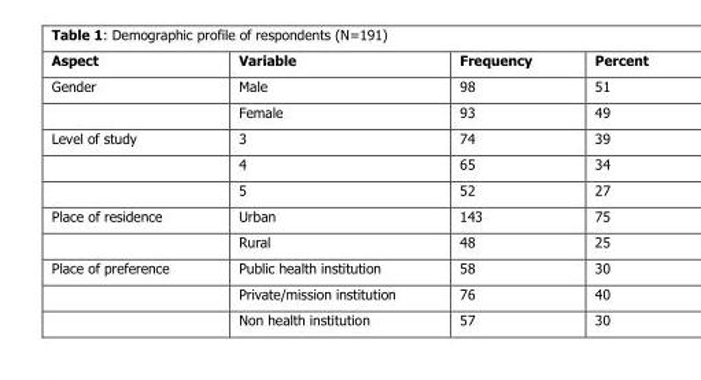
<table><thead><tr><td>Aspect</td><td>Variable</td><td>Frequency</td><td>Percent</td></tr></thead><tbody><tr><td rowspan="2">Gender</td><td>Male</td><td>98</td><td>51</td></tr><tr><td>Female</td><td>93</td><td>49</td></tr><tr><td rowspan="3">Level of study</td><td>3</td><td>74</td><td>39</td></tr><tr><td>4</td><td>65</td><td>34</td></tr><tr><td>5</td><td>52</td><td>27</td></tr><tr><td rowspan="2">Place of residence</td><td>Urban</td><td>143</td><td>75</td></tr><tr><td>Rural</td><td>48</td><td>25</td></tr><tr><td rowspan="3">Place of preference</td><td>Public health institution</td><td>58</td><td>30</td></tr><tr><td>Private/mission institution</td><td>76</td><td>40</td></tr><tr><td>Non health institution</td><td>57</td><td>30</td></tr></tbody></table>